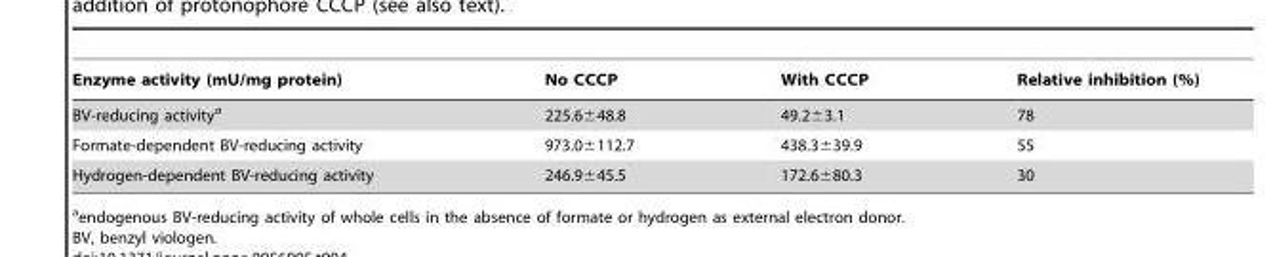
<table><thead><tr><td>Enzyme activity (mU/mg protein)</td><td>No CCCP</td><td>With CCCP</td><td>Relative inhibition (%)</td></tr></thead><tbody><tr><td>BV-reducing activity<sup>a</sup></td><td>225.6±48.8</td><td>49.2±3.1</td><td>78</td></tr><tr><td>Formate-dependent BV-reducing activity</td><td>973.0±112.7</td><td>438.3±39.9</td><td>55</td></tr><tr><td>Hydrogen-dependent BV-reducing activity</td><td>246.9±45.5</td><td>172.6±80.3</td><td>30</td></tr></tbody></table>